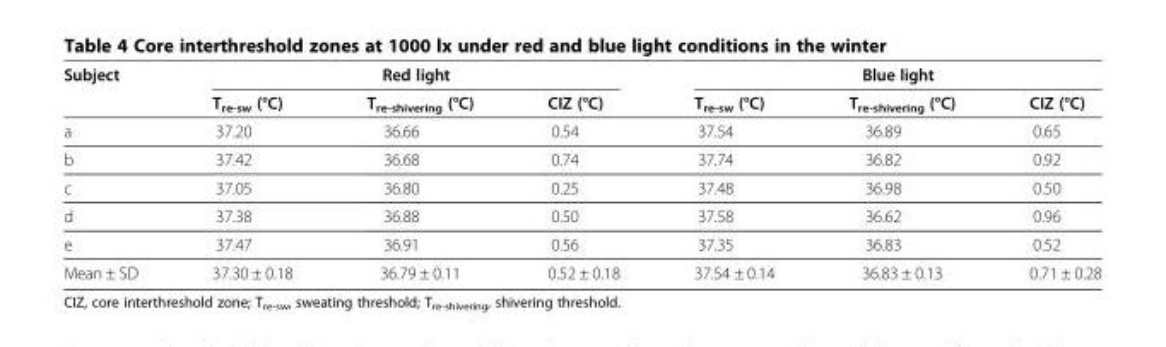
<table><thead><tr><td rowspan="2">Subject</td><td colspan="3">Red light</td><td colspan="3">Blue light</td></tr><tr><td>T<sub>re-sw</sub> (°C)</td><td>T<sub>re-shivering</sub> (°C)</td><td>CIZ (°C)</td><td>T<sub>re-sw</sub> (°C)</td><td>T<sub>re-shivering</sub> (°C)</td><td>CIZ (°C)</td></tr></thead><tbody><tr><td>a</td><td>37.20</td><td>36.66</td><td>0.54</td><td>37.54</td><td>36.89</td><td>0.65</td></tr><tr><td>b</td><td>37.42</td><td>36.68</td><td>0.74</td><td>37.74</td><td>36.82</td><td>0.92</td></tr><tr><td>c</td><td>37.05</td><td>36.80</td><td>0.25</td><td>37.48</td><td>36.98</td><td>0.50</td></tr><tr><td>d</td><td>37.38</td><td>36.88</td><td>0.50</td><td>37.58</td><td>36.62</td><td>0.96</td></tr><tr><td>e</td><td>37.47</td><td>36.91</td><td>0.56</td><td>37.35</td><td>36.83</td><td>0.52</td></tr><tr><td>Mean ± SD</td><td>37.30 ± 0.18</td><td>36.79 ± 0.11</td><td>0.52 ± 0.18</td><td>37.54 ± 0.14</td><td>36.83 ± 0.13</td><td>0.71 ± 0.28</td></tr></tbody></table>